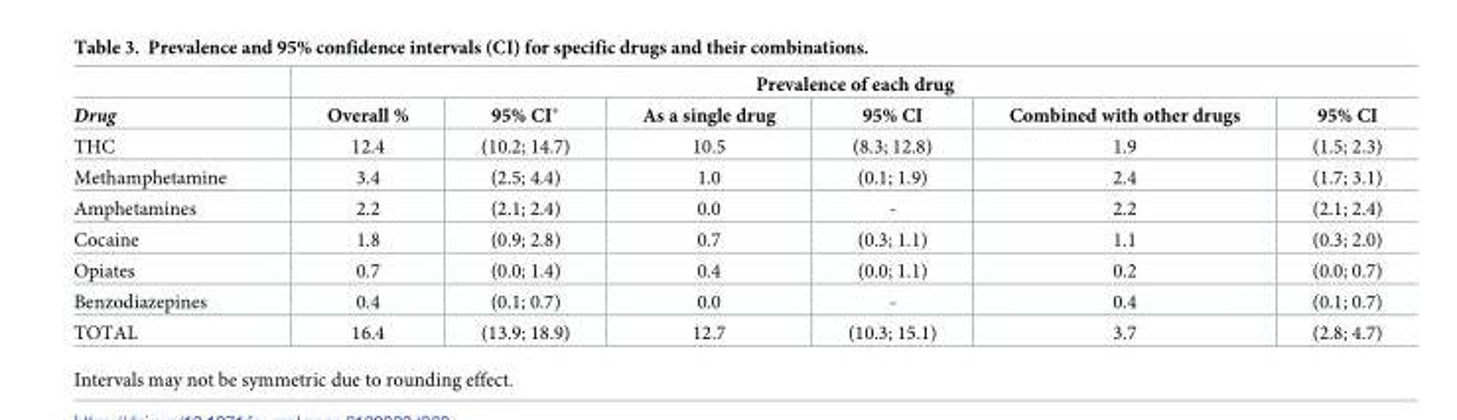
<table><thead><tr><td rowspan="2">Drug</td><td colspan="6">Prevalence of each drug</td></tr><tr><td>Overall %</td><td>95% CI*</td><td>As a single drug</td><td>95% CI</td><td>Combined with other drugs</td><td>95% CI</td></tr></thead><tbody><tr><td>THC</td><td>12.4</td><td>(10.2; 14.7)</td><td>10.5</td><td>(8.3; 12.8)</td><td>1.9</td><td>(1.5; 2.3)</td></tr><tr><td>Methamphetamine</td><td>3.4</td><td>(2.5; 4.4)</td><td>1.0</td><td>(0.1; 1.9)</td><td>2.4</td><td>(1.7; 3.1)</td></tr><tr><td>Amphetamines</td><td>2.2</td><td>(2.1; 2.4)</td><td>0.0</td><td>-</td><td>2.2</td><td>(2.1; 2.4)</td></tr><tr><td>Cocaine</td><td>1.8</td><td>(0.9; 2.8)</td><td>0.7</td><td>(0.3; 1.1)</td><td>1.1</td><td>(0.3; 2.0)</td></tr><tr><td>Opiates</td><td>0.7</td><td>(0.0; 1.4)</td><td>0.4</td><td>(0.0; 1.1)</td><td>0.2</td><td>(0.0; 0.7)</td></tr><tr><td>Benzodiazepines</td><td>0.4</td><td>(0.1; 0.7)</td><td>0.0</td><td>-</td><td>0.4</td><td>(0.1; 0.7)</td></tr><tr><td>TOTAL</td><td>16.4</td><td>(13.9; 18.9)</td><td>12.7</td><td>(10.3; 15.1)</td><td>3.7</td><td>(2.8; 4.7)</td></tr></tbody></table>